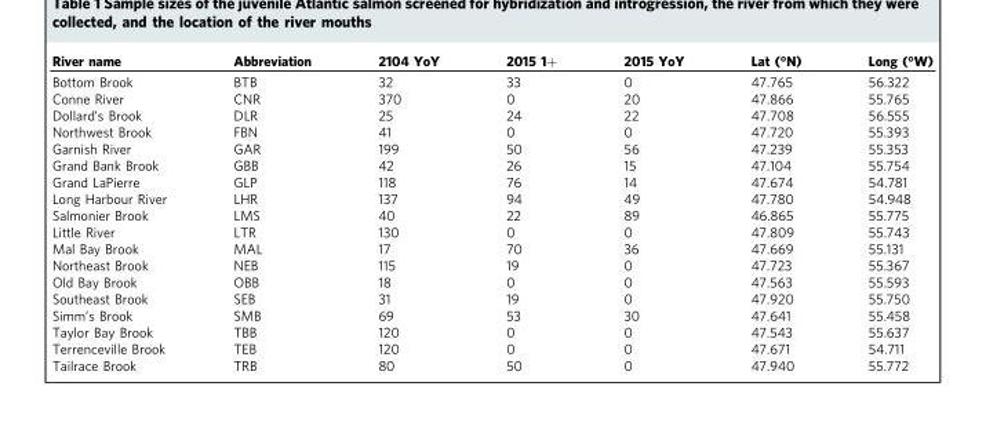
<table><thead><tr><td>River name</td><td>Abbreviation</td><td>2104 YoY</td><td>2015 1+</td><td>2015 YoY</td><td>Lat (°N)</td><td>Long (°W)</td></tr></thead><tbody><tr><td>Bottom Brook</td><td>BTB</td><td>32</td><td>33</td><td>0</td><td>47.765</td><td>56.322</td></tr><tr><td>Conne River</td><td>CNR</td><td>370</td><td>0</td><td>20</td><td>47.866</td><td>55.765</td></tr><tr><td>Dollard’s Brook</td><td>DLR</td><td>25</td><td>24</td><td>22</td><td>47.708</td><td>56.555</td></tr><tr><td>Northwest Brook</td><td>FBN</td><td>41</td><td>0</td><td>0</td><td>47.720</td><td>55.393</td></tr><tr><td>Garnish River</td><td>GAR</td><td>199</td><td>50</td><td>56</td><td>47.239</td><td>55.353</td></tr><tr><td>Grand Bank Brook</td><td>GBB</td><td>42</td><td>26</td><td>15</td><td>47.104</td><td>55.754</td></tr><tr><td>Grand LaPierre</td><td>GLP</td><td>118</td><td>76</td><td>14</td><td>47.674</td><td>54.781</td></tr><tr><td>Long Harbour River</td><td>LHR</td><td>137</td><td>94</td><td>49</td><td>47.780</td><td>54.948</td></tr><tr><td>Salmonier Brook</td><td>LMS</td><td>40</td><td>22</td><td>89</td><td>46.865</td><td>55.775</td></tr><tr><td>Little River</td><td>LTR</td><td>130</td><td>0</td><td>0</td><td>47.809</td><td>55.743</td></tr><tr><td>Mal Bay Brook</td><td>MAL</td><td>17</td><td>70</td><td>36</td><td>47.669</td><td>55.131</td></tr><tr><td>Northeast Brook</td><td>NEB</td><td>115</td><td>19</td><td>0</td><td>47.723</td><td>55.367</td></tr><tr><td>Old Bay Brook</td><td>OBB</td><td>18</td><td>0</td><td>0</td><td>47.563</td><td>55.593</td></tr><tr><td>Southeast Brook</td><td>SEB</td><td>31</td><td>19</td><td>0</td><td>47.920</td><td>55.750</td></tr><tr><td>Simm’s Brook</td><td>SMB</td><td>69</td><td>53</td><td>30</td><td>47.641</td><td>55.458</td></tr><tr><td>Taylor Bay Brook</td><td>TBB</td><td>120</td><td>0</td><td>0</td><td>47.543</td><td>55.637</td></tr><tr><td>Terrenceville Brook</td><td>TEB</td><td>120</td><td>0</td><td>0</td><td>47.671</td><td>54.711</td></tr><tr><td>Tailrace Brook</td><td>TRB</td><td>80</td><td>50</td><td>0</td><td>47.940</td><td>55.772</td></tr></tbody></table>